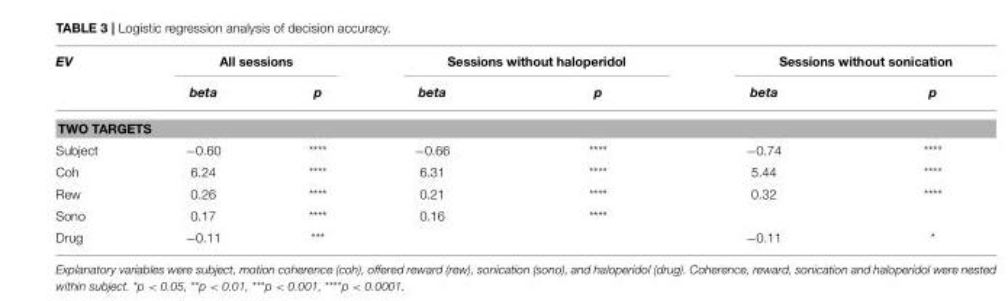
<table><thead><tr><td rowspan="2">EV</td><td colspan="2">All sessions</td><td colspan="2">Sessions without haloperidol</td><td colspan="2">Sessions without sonication</td></tr><tr><td>beta</td><td>p</td><td>beta</td><td>p</td><td>beta</td><td>p</td></tr></thead><tbody><tr><td colspan="7">TWO TARGETS</td></tr><tr><td>Subject</td><td>−0.60</td><td>****</td><td>−0.66</td><td>****</td><td>−0.74</td><td>****</td></tr><tr><td>Coh</td><td>6.24</td><td>****</td><td>6.31</td><td>****</td><td>5.44</td><td>****</td></tr><tr><td>Rew</td><td>0.26</td><td>****</td><td>0.21</td><td>****</td><td>0.32</td><td>****</td></tr><tr><td>Sono</td><td>0.17</td><td>****</td><td>0.16</td><td>****</td><td></td><td></td></tr><tr><td>Drug</td><td>−0.11</td><td>***</td><td></td><td></td><td>−0.11</td><td>*</td></tr></tbody></table>